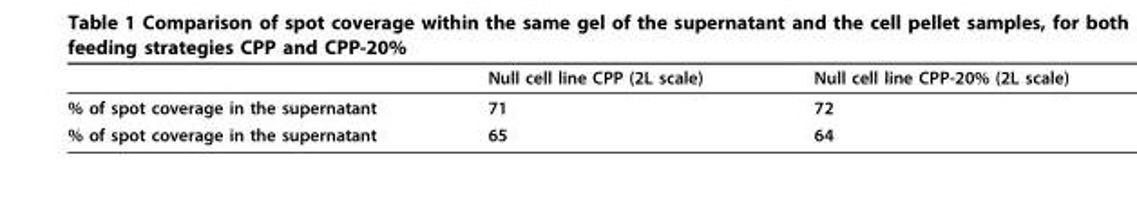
<table><thead><tr><td></td><td>Null cell line CPP (2L scale)</td><td>Null cell line CPP-20% (2L scale)</td></tr></thead><tbody><tr><td>% of spot coverage in the supernatant</td><td>71</td><td>72</td></tr><tr><td>% of spot coverage in the supernatant</td><td>65</td><td>64</td></tr></tbody></table>